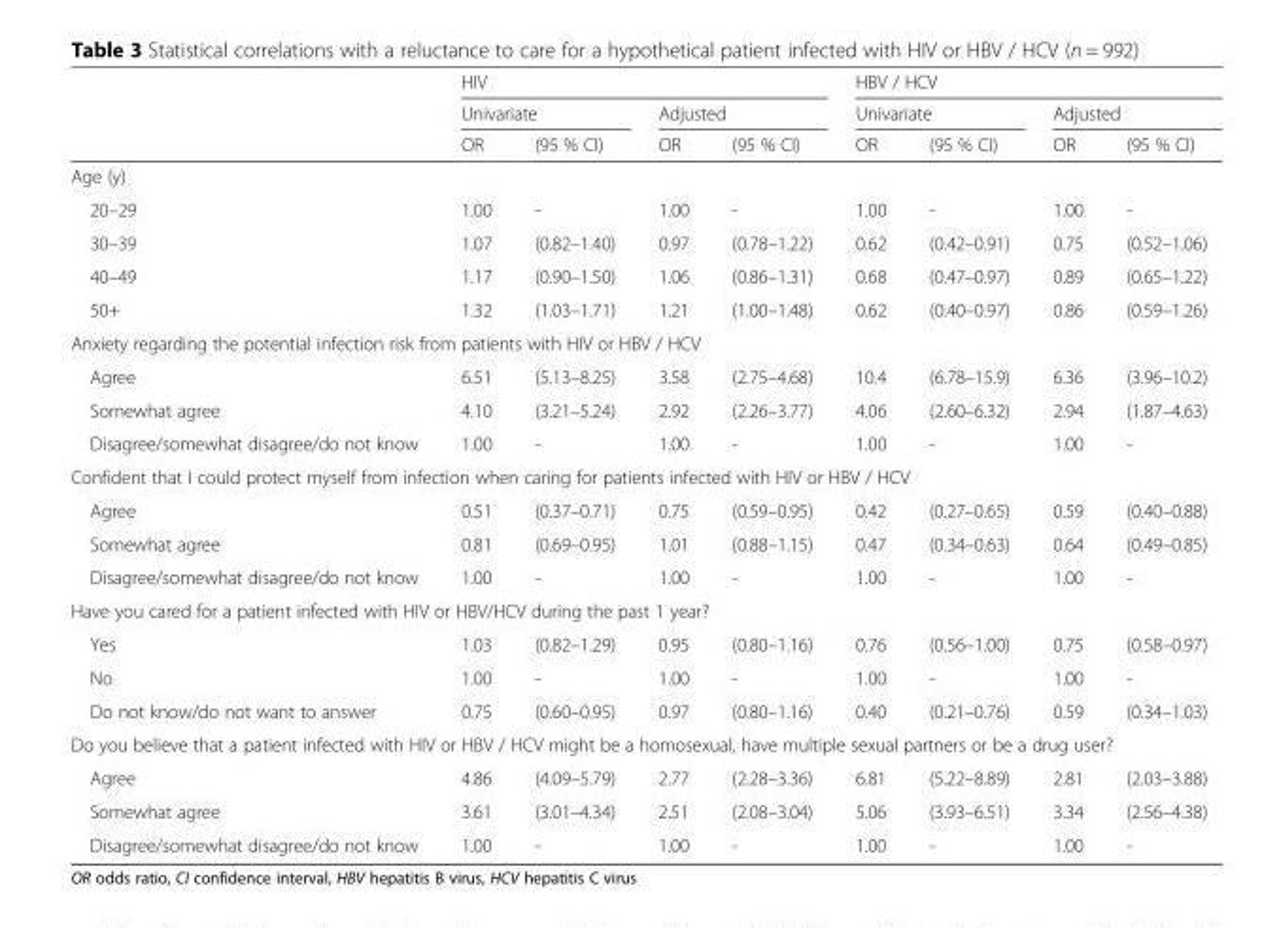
<table><thead><tr><td rowspan="3"></td><td colspan="4">HIV</td><td colspan="4">HBV / HCV</td></tr><tr><td colspan="2">Univariate</td><td colspan="2">Adjusted</td><td colspan="2">Univariate</td><td colspan="2">Adjusted</td></tr><tr><td>OR</td><td>(95 % CI)</td><td>OR</td><td>(95 % CI)</td><td>OR</td><td>(95 % CI)</td><td>OR</td><td>(95 % CI)</td></tr></thead><tbody><tr><td colspan="9">Age (y)</td></tr><tr><td>20–29</td><td>1.00</td><td>-</td><td>1.00</td><td>-</td><td>1.00</td><td>-</td><td>1.00</td><td>-</td></tr><tr><td>30–39</td><td>1.07</td><td>(0.82–1.40)</td><td>0.97</td><td>(0.78–1.22)</td><td>0.62</td><td>(0.42–0.91)</td><td>0.75</td><td>(0.52–1.06)</td></tr><tr><td>40–49</td><td>1.17</td><td>(0.90–1.50)</td><td>1.06</td><td>(0.86–1.31)</td><td>0.68</td><td>(0.47–0.97)</td><td>0.89</td><td>(0.65–1.22)</td></tr><tr><td>50+</td><td>1.32</td><td>(1.03–1.71)</td><td>1.21</td><td>(1.00–1.48)</td><td>0.62</td><td>(0.40–0.97)</td><td>0.86</td><td>(0.59–1.26)</td></tr><tr><td colspan="9">Anxiety regarding the potential infection risk from patients with HIV or HBV / HCV</td></tr><tr><td>Agree</td><td>6.51</td><td>(5.13–8.25)</td><td>3.58</td><td>(2.75–4.68)</td><td>10.4</td><td>(6.78–15.9)</td><td>6.36</td><td>(3.96–10.2)</td></tr><tr><td>Somewhat agree</td><td>4.10</td><td>(3.21–5.24)</td><td>2.92</td><td>(2.26–3.77)</td><td>4.06</td><td>(2.60–6.32)</td><td>2.94</td><td>(1.87–4.63)</td></tr><tr><td>Disagree/somewhat disagree/do not know</td><td>1.00</td><td>-</td><td>1.00</td><td>-</td><td>1.00</td><td>-</td><td>1.00</td><td>-</td></tr><tr><td colspan="9">Confident that I could protect myself from infection when caring for patients infected with HIV or HBV / HCV</td></tr><tr><td>Agree</td><td>0.51</td><td>(0.37–0.71)</td><td>0.75</td><td>(0.59–0.95)</td><td>0.42</td><td>(0.27–0.65)</td><td>0.59</td><td>(0.40–0.88)</td></tr><tr><td>Somewhat agree</td><td>0.81</td><td>(0.69–0.95)</td><td>1.01</td><td>(0.88–1.15)</td><td>0.47</td><td>(0.34–0.63)</td><td>0.64</td><td>(0.49–0.85)</td></tr><tr><td>Disagree/somewhat disagree/do not know</td><td>1.00</td><td>-</td><td>1.00</td><td>-</td><td>1.00</td><td>-</td><td>1.00</td><td>-</td></tr><tr><td colspan="9">Have you cared for a patient infected with HIV or HBV/HCV during the past 1 year?</td></tr><tr><td>Yes</td><td>1.03</td><td>(0.82–1.29)</td><td>0.95</td><td>(0.80–1.16)</td><td>0.76</td><td>(0.56–1.00)</td><td>0.75</td><td>(0.58–0.97)</td></tr><tr><td>No</td><td>1.00</td><td>-</td><td>1.00</td><td>-</td><td>1.00</td><td>-</td><td>1.00</td><td>-</td></tr><tr><td>Do not know/do not want to answer</td><td>0.75</td><td>(0.60–0.95)</td><td>0.97</td><td>(0.80–1.16)</td><td>0.40</td><td>(0.21–0.76)</td><td>0.59</td><td>(0.34–1.03)</td></tr><tr><td colspan="9">Do you believe that a patient infected with HIV or HBV / HCV might be a homosexual, have multiple sexual partners or be a drug user?</td></tr><tr><td>Agree</td><td>4.86</td><td>(4.09–5.79)</td><td>2.77</td><td>(2.28–3.36)</td><td>6.81</td><td>(5.22–8.89)</td><td>2.81</td><td>(2.03–3.88)</td></tr><tr><td>Somewhat agree</td><td>3.61</td><td>(3.01–4.34)</td><td>2.51</td><td>(2.08–3.04)</td><td>5.06</td><td>(3.93–6.51)</td><td>3.34</td><td>(2.56–4.38)</td></tr><tr><td>Disagree/somewhat disagree/do not know</td><td>1.00</td><td>-</td><td>1.00</td><td>-</td><td>1.00</td><td>-</td><td>1.00</td><td>-</td></tr></tbody></table>